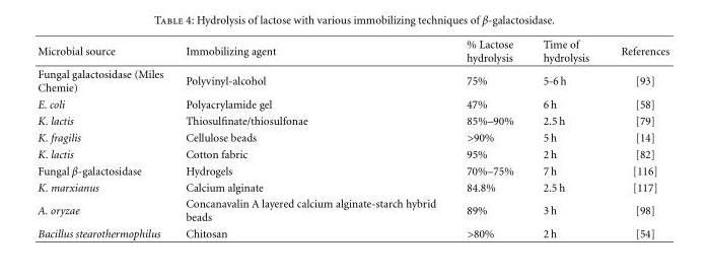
<table><thead><tr><td>Microbial source</td><td>Immobilizing agent</td><td>% Lactose hydrolysis</td><td>Time of hydrolysis</td><td>References</td></tr></thead><tbody><tr><td>Fungal galactosidase (Miles Chemie)</td><td>Polyvinyl-alcohol</td><td>75%</td><td>5-6 h</td><td>[93]</td></tr><tr><td>E. coli</td><td>Polyacrylamide gel</td><td>47%</td><td>6 h</td><td>[58]</td></tr><tr><td>K. lactis</td><td>Thiosulfinate/thiosulfonae</td><td>85%–90%</td><td>2.5 h</td><td>[79]</td></tr><tr><td>K. fragilis</td><td>Cellulose beads</td><td>&gt;90%</td><td>5 h</td><td>[14]</td></tr><tr><td>K. lactis</td><td>Cotton fabric</td><td>95%</td><td>2 h</td><td>[82]</td></tr><tr><td>Fungal β-galactosidase</td><td>Hydrogels</td><td>70%–75%</td><td>7 h</td><td>[116]</td></tr><tr><td>K. marxianus</td><td>Calcium alginate</td><td>84.8%</td><td>2.5 h</td><td>[117]</td></tr><tr><td>A. oryzae</td><td>Concanavalin A layered calcium alginate-starch hybrid beads</td><td>89%</td><td>3 h</td><td>[98]</td></tr><tr><td>Bacillus stearothermophilus</td><td>Chitosan</td><td>&gt;80%</td><td>2 h</td><td>[54]</td></tr></tbody></table>